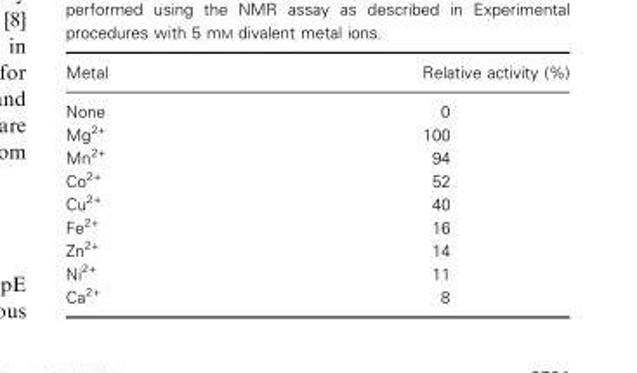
<table><thead><tr><td>Metal</td><td>Relative activity (%)</td></tr></thead><tbody><tr><td>None</td><td>0</td></tr><tr><td>Mg<sup>2+</sup></td><td>100</td></tr><tr><td>Mn<sup>2+</sup></td><td>94</td></tr><tr><td>Co<sup>2+</sup></td><td>52</td></tr><tr><td>Cu<sup>2+</sup></td><td>40</td></tr><tr><td>Fe<sup>2+</sup></td><td>16</td></tr><tr><td>Zn<sup>2+</sup></td><td>14</td></tr><tr><td>Ni<sup>2+</sup></td><td>11</td></tr><tr><td>Ca<sup>2+</sup></td><td>8</td></tr></tbody></table>